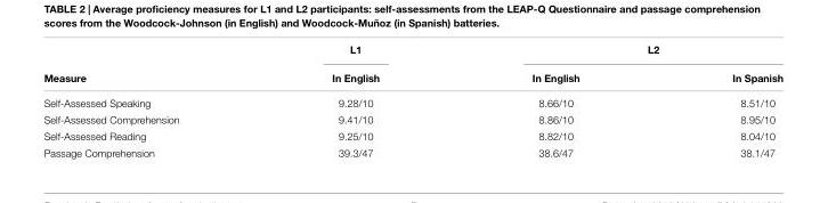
<table><thead><tr><td rowspan="2">Measure</td><td rowspan="2">L1 In English</td><td colspan="2">L2</td></tr><tr><td>In English</td><td>In Spanish</td></tr></thead><tbody><tr><td>Self-Assessed Speaking</td><td>9.28/10</td><td>8.66/10</td><td>8.51/10</td></tr><tr><td>Self-Assessed Comprehension</td><td>9.41/10</td><td>8.86/10</td><td>8.95/10</td></tr><tr><td>Self-Assessed Reading</td><td>9.25/10</td><td>8.82/10</td><td>8.04/10</td></tr><tr><td>Passage Comprehension</td><td>39.3/47</td><td>38.6/47</td><td>38.1/47</td></tr></tbody></table>